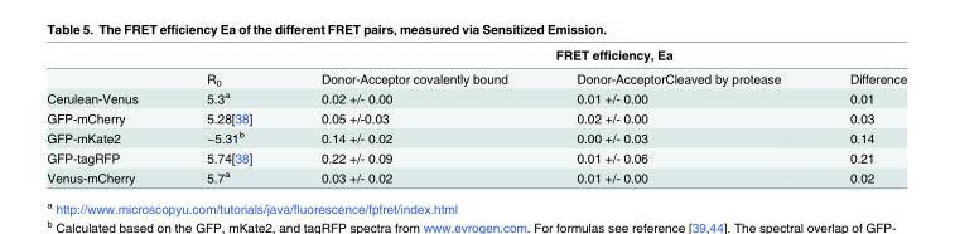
<table><thead><tr><td rowspan="2"></td><td rowspan="2">R<sub>0</sub></td><td colspan="3">FRET efficiency, Ea</td></tr><tr><td>Donor-Acceptor covalently bound</td><td>Donor-AcceptorCleaved by protease</td><td>Difference</td></tr></thead><tbody><tr><td>Cerulean-Venus</td><td>5.3<sup>a</sup></td><td>0.02 +/- 0.00</td><td>0.01 +/- 0.00</td><td>0.01</td></tr><tr><td>GFP-mCherry</td><td>5.28[38]</td><td>0.05 +/-0.03</td><td>0.02 +/- 0.00</td><td>0.03</td></tr><tr><td>GFP-mKate2</td><td>~5.31<sup>b</sup></td><td>0.14 +/- 0.02</td><td>0.00 +/- 0.03</td><td>0.14</td></tr><tr><td>GFP-tagRFP</td><td>5.74[38]</td><td>0.22 +/- 0.09</td><td>0.01 +/- 0.06</td><td>0.21</td></tr><tr><td>Venus-mCherry</td><td>5.7<sup>a</sup></td><td>0.03 +/- 0.02</td><td>0.01 +/- 0.00</td><td>0.02</td></tr></tbody></table>